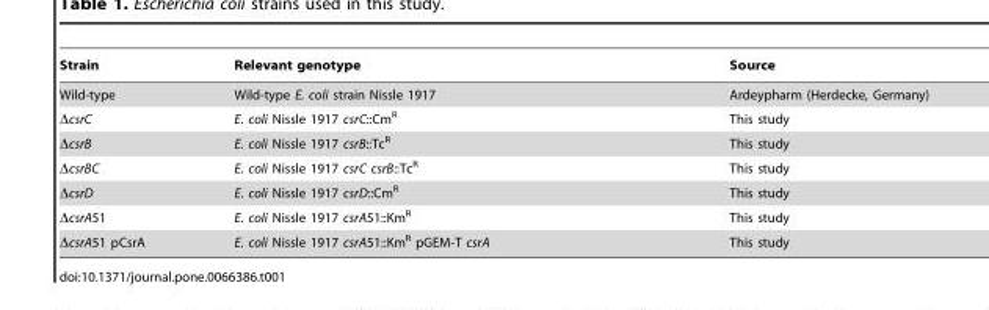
<table><thead><tr><td>Strain</td><td>Relevant genotype</td><td>Source</td></tr></thead><tbody><tr><td>Wild-type</td><td>Wild-type E. coli strain Nissle 1917</td><td>Ardeypharm (Herdecke, Germany)</td></tr><tr><td>ΔcsrC</td><td>E. coli Nissle 1917 csrC::Cm<sup>R</sup></td><td>This study</td></tr><tr><td>ΔcsrB</td><td>E. coli Nissle 1917 csrB::Tc<sup>R</sup></td><td>This study</td></tr><tr><td>ΔcsrBC</td><td>E. coli Nissle 1917 csrC csrB::Tc<sup>R</sup></td><td>This study</td></tr><tr><td>ΔcsrD</td><td>E. coli Nissle 1917 csrD::Cm<sup>R</sup></td><td>This study</td></tr><tr><td>ΔcsrA51</td><td>E. coli Nissle 1917 csrA51::Km<sup>R</sup></td><td>This study</td></tr><tr><td>ΔcsrA51 pCsrA</td><td>E. coli Nissle 1917 csrA51::Km<sup>R</sup> pGEM-T csrA</td><td>This study</td></tr></tbody></table>